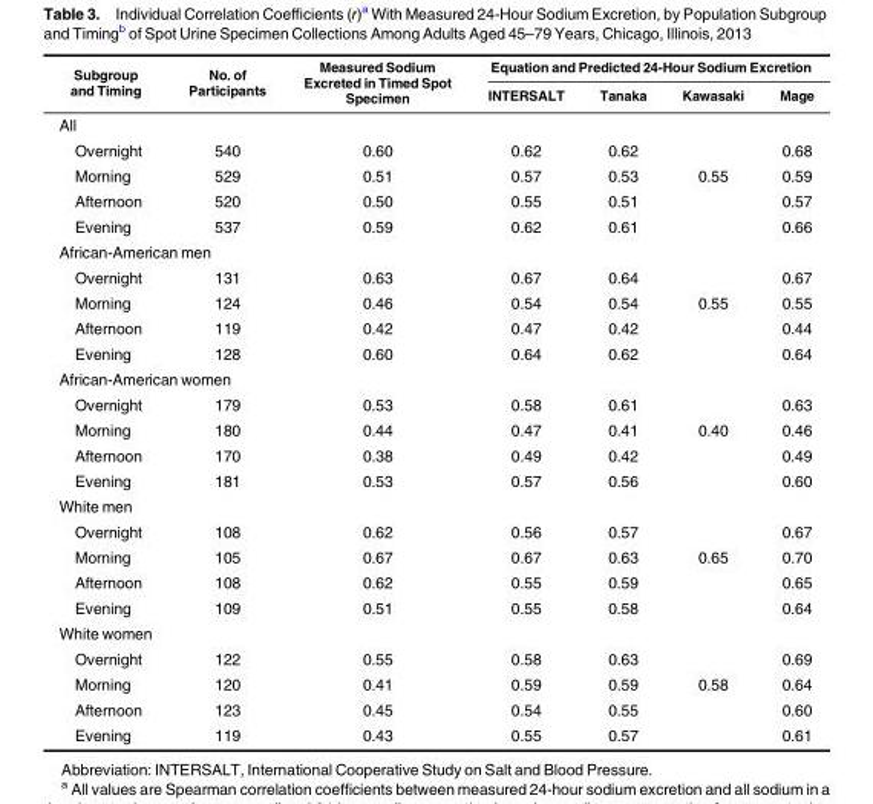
<table><thead><tr><td rowspan="2">Subgroup and Timing</td><td rowspan="2">No. of Participants</td><td rowspan="2">Measured Sodium Excreted in Timed Spot Specimen</td><td colspan="4">Equation and Predicted 24-Hour Sodium Excretion</td></tr><tr><td>INTERSALT</td><td>Tanaka</td><td>Kawasaki</td><td>Mage</td></tr></thead><tbody><tr><td colspan="7">All</td></tr><tr><td>Overnight</td><td>540</td><td>0.60</td><td>0.62</td><td>0.62</td><td></td><td>0.68</td></tr><tr><td>Morning</td><td>529</td><td>0.51</td><td>0.57</td><td>0.53</td><td>0.55</td><td>0.59</td></tr><tr><td>Afternoon</td><td>520</td><td>0.50</td><td>0.55</td><td>0.51</td><td></td><td>0.57</td></tr><tr><td>Evening</td><td>537</td><td>0.59</td><td>0.62</td><td>0.61</td><td></td><td>0.66</td></tr><tr><td colspan="7">African-American men</td></tr><tr><td>Overnight</td><td>131</td><td>0.63</td><td>0.67</td><td>0.64</td><td></td><td>0.67</td></tr><tr><td>Morning</td><td>124</td><td>0.46</td><td>0.54</td><td>0.54</td><td>0.55</td><td>0.55</td></tr><tr><td>Afternoon</td><td>119</td><td>0.42</td><td>0.47</td><td>0.42</td><td></td><td>0.44</td></tr><tr><td>Evening</td><td>128</td><td>0.60</td><td>0.64</td><td>0.62</td><td></td><td>0.64</td></tr><tr><td colspan="7">African-American women</td></tr><tr><td>Overnight</td><td>179</td><td>0.53</td><td>0.58</td><td>0.61</td><td></td><td>0.63</td></tr><tr><td>Morning</td><td>180</td><td>0.44</td><td>0.47</td><td>0.41</td><td>0.40</td><td>0.46</td></tr><tr><td>Afternoon</td><td>170</td><td>0.38</td><td>0.49</td><td>0.42</td><td></td><td>0.49</td></tr><tr><td>Evening</td><td>181</td><td>0.53</td><td>0.57</td><td>0.56</td><td></td><td>0.60</td></tr><tr><td colspan="7">White men</td></tr><tr><td>Overnight</td><td>108</td><td>0.62</td><td>0.56</td><td>0.57</td><td></td><td>0.67</td></tr><tr><td>Morning</td><td>105</td><td>0.67</td><td>0.67</td><td>0.63</td><td>0.65</td><td>0.70</td></tr><tr><td>Afternoon</td><td>108</td><td>0.62</td><td>0.55</td><td>0.59</td><td></td><td>0.65</td></tr><tr><td>Evening</td><td>109</td><td>0.51</td><td>0.55</td><td>0.58</td><td></td><td>0.64</td></tr><tr><td colspan="7">White women</td></tr><tr><td>Overnight</td><td>122</td><td>0.55</td><td>0.58</td><td>0.63</td><td></td><td>0.69</td></tr><tr><td>Morning</td><td>120</td><td>0.41</td><td>0.59</td><td>0.59</td><td>0.58</td><td>0.64</td></tr><tr><td>Afternoon</td><td>123</td><td>0.45</td><td>0.54</td><td>0.55</td><td></td><td>0.60</td></tr><tr><td>Evening</td><td>119</td><td>0.43</td><td>0.55</td><td>0.57</td><td></td><td>0.61</td></tr></tbody></table>